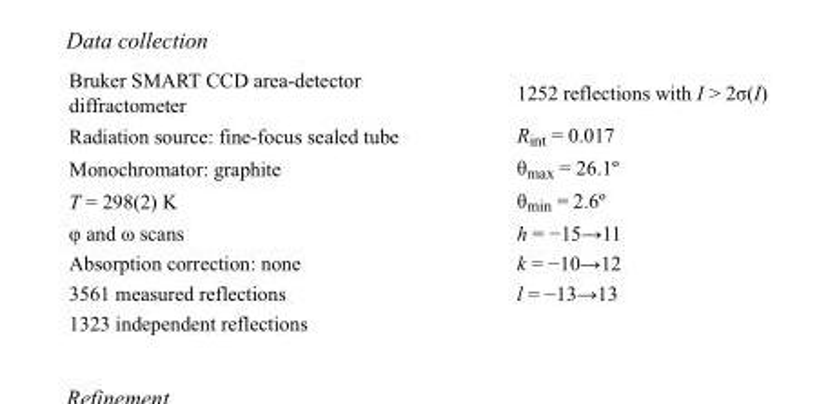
<table><tbody><tr><td>Bruker SMART CCD area-detector diffractometer</td><td>1252 reflections with I &gt; 2σ(I)</td></tr><tr><td>Radiation source: fine-focus sealed tube</td><td>R<sub>int</sub> = 0.017</td></tr><tr><td>Monochromator: graphite</td><td>θ<sub>max</sub> = 26.1º</td></tr><tr><td>T = 298(2) K</td><td>θ<sub>min</sub> = 2.6º</td></tr><tr><td>φ and ω scans</td><td>h = −15→11</td></tr><tr><td>Absorption correction: none</td><td>k = −10→12</td></tr><tr><td>3561 measured reflections</td><td>l = −13→13</td></tr><tr><td>1323 independent reflections</td><td></td></tr></tbody></table>